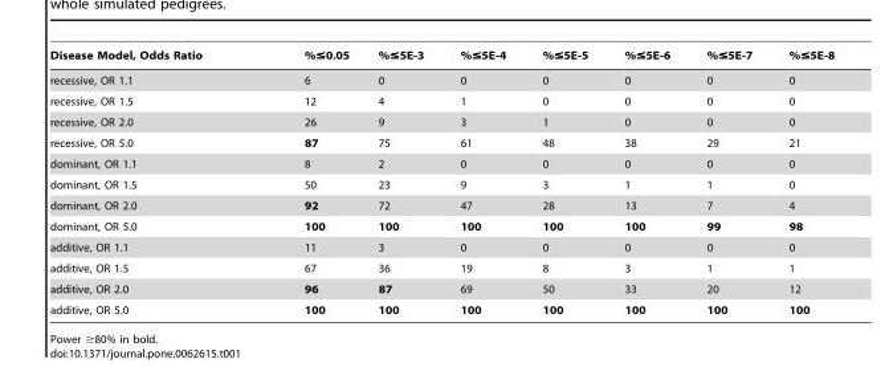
<table><thead><tr><td>Disease Model, Odds Ratio</td><td>%≤0.05</td><td>%≤5E-3</td><td>%≤5E-4</td><td>%≤5E-5</td><td>%≤5E-6</td><td>%≤5E-7</td><td>%≤5E-8</td></tr></thead><tbody><tr><td>recessive, OR 1.1</td><td>6</td><td>0</td><td>0</td><td>0</td><td>0</td><td>0</td><td>0</td></tr><tr><td>recessive, OR 1.5</td><td>12</td><td>4</td><td>1</td><td>0</td><td>0</td><td>0</td><td>0</td></tr><tr><td>recessive, OR 2.0</td><td>26</td><td>9</td><td>3</td><td>1</td><td>0</td><td>0</td><td>0</td></tr><tr><td>recessive, OR 5.0</td><td>87</td><td>75</td><td>61</td><td>48</td><td>38</td><td>29</td><td>21</td></tr><tr><td>dominant, OR 1.1</td><td>8</td><td>2</td><td>0</td><td>0</td><td>0</td><td>0</td><td>0</td></tr><tr><td>dominant, OR 1.5</td><td>50</td><td>23</td><td>9</td><td>3</td><td>1</td><td>1</td><td>0</td></tr><tr><td>dominant, OR 2.0</td><td>92</td><td>72</td><td>47</td><td>28</td><td>13</td><td>7</td><td>4</td></tr><tr><td>dominant, OR 5.0</td><td>100</td><td>100</td><td>100</td><td>100</td><td>100</td><td>99</td><td>98</td></tr><tr><td>additive, OR 1.1</td><td>11</td><td>3</td><td>0</td><td>0</td><td>0</td><td>0</td><td>0</td></tr><tr><td>additive, OR 1.5</td><td>67</td><td>36</td><td>19</td><td>8</td><td>3</td><td>1</td><td>1</td></tr><tr><td>additive, OR 2.0</td><td>96</td><td>87</td><td>69</td><td>50</td><td>33</td><td>20</td><td>12</td></tr><tr><td>additive, OR 5.0</td><td>100</td><td>100</td><td>100</td><td>100</td><td>100</td><td>100</td><td>100</td></tr></tbody></table>